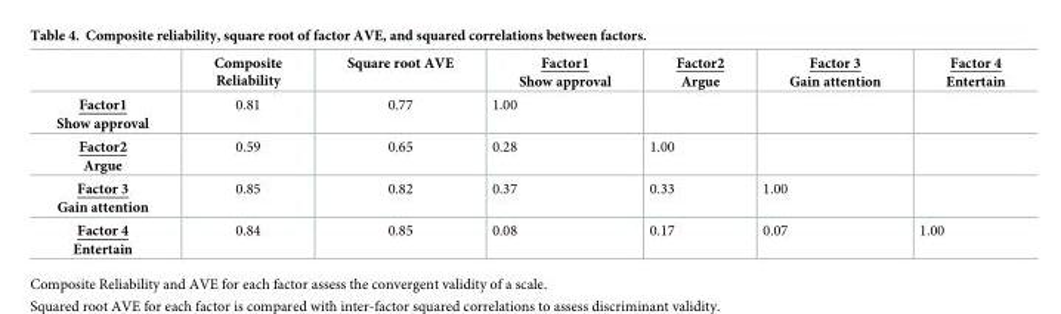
<table><thead><tr><td></td><td>Composite Reliability</td><td>Square root AVE</td><td>Factor1 Show approval</td><td>Factor2 Argue</td><td>Factor 3 Gain attention</td><td>Factor 4 Entertain</td></tr></thead><tbody><tr><td>Factor1 Show approval</td><td>0.81</td><td>0.77</td><td>1.00</td><td></td><td></td><td></td></tr><tr><td>Factor2 Argue</td><td>0.59</td><td>0.65</td><td>0.28</td><td>1.00</td><td></td><td></td></tr><tr><td>Factor 3 Gain attention</td><td>0.85</td><td>0.82</td><td>0.37</td><td>0.33</td><td>1.00</td><td></td></tr><tr><td>Factor 4 Entertain</td><td>0.84</td><td>0.85</td><td>0.08</td><td>0.17</td><td>0.07</td><td>1.00</td></tr></tbody></table>